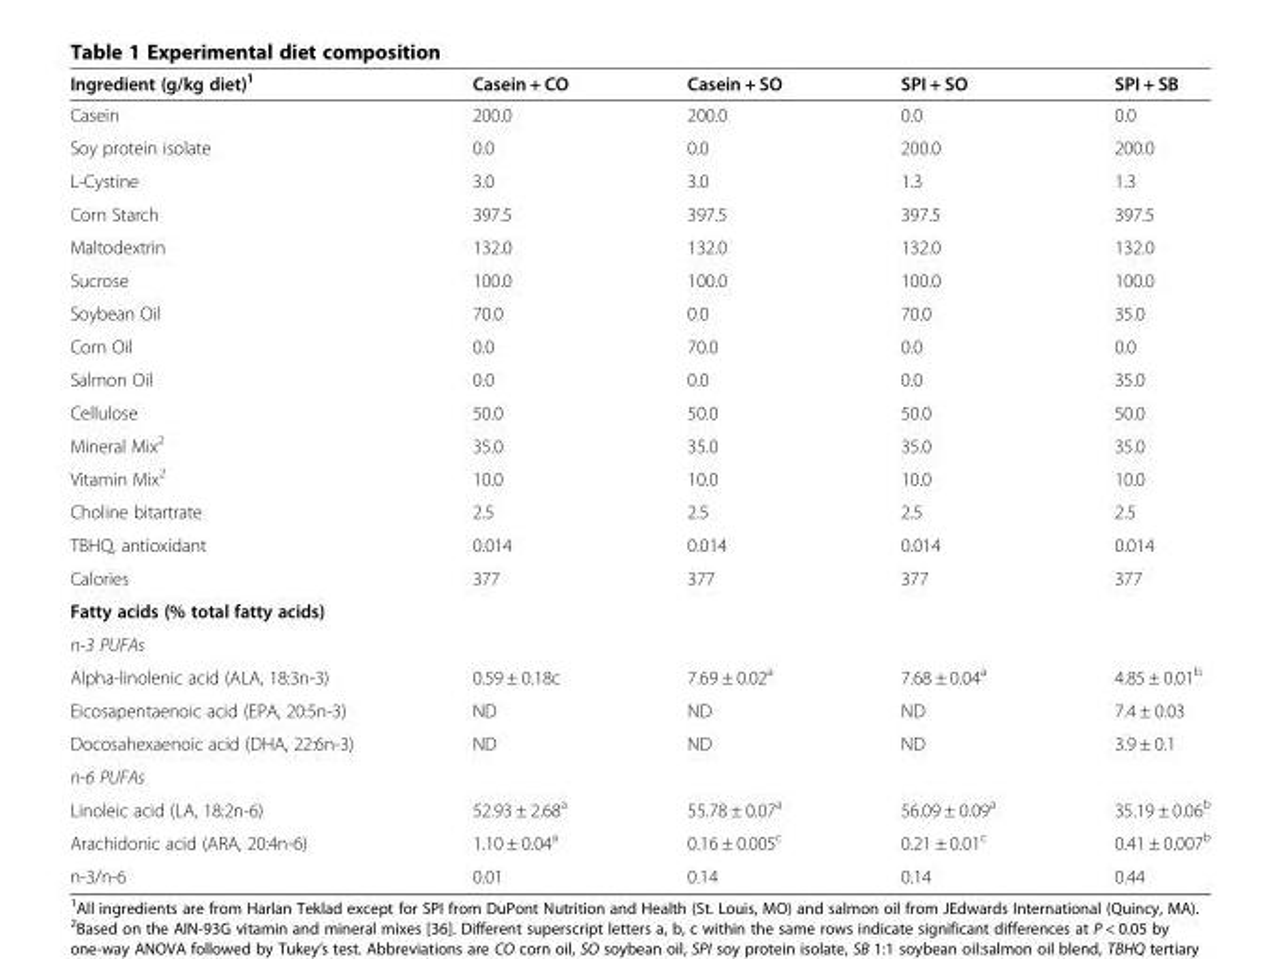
<table><thead><tr><td>Ingredient (g/kg diet)<sup>1</sup></td><td>Casein + CO</td><td>Casein + SO</td><td>SPI + SO</td><td>SPI + SB</td></tr></thead><tbody><tr><td>Casein</td><td>200.0</td><td>200.0</td><td>0.0</td><td>0.0</td></tr><tr><td>Soy protein isolate</td><td>0.0</td><td>0.0</td><td>200.0</td><td>200.0</td></tr><tr><td>L-Cystine</td><td>3.0</td><td>3.0</td><td>1.3</td><td>1.3</td></tr><tr><td>Corn Starch</td><td>397.5</td><td>397.5</td><td>397.5</td><td>397.5</td></tr><tr><td>Maltodextrin</td><td>132.0</td><td>132.0</td><td>132.0</td><td>132.0</td></tr><tr><td>Sucrose</td><td>100.0</td><td>100.0</td><td>100.0</td><td>100.0</td></tr><tr><td>Soybean Oil</td><td>70.0</td><td>0.0</td><td>70.0</td><td>35.0</td></tr><tr><td>Corn Oil</td><td>0.0</td><td>70.0</td><td>0.0</td><td>0.0</td></tr><tr><td>Salmon Oil</td><td>0.0</td><td>0.0</td><td>0.0</td><td>35.0</td></tr><tr><td>Cellulose</td><td>50.0</td><td>50.0</td><td>50.0</td><td>50.0</td></tr><tr><td>Mineral Mix<sup>2</sup></td><td>35.0</td><td>35.0</td><td>35.0</td><td>35.0</td></tr><tr><td>Vitamin Mix<sup>2</sup></td><td>10.0</td><td>10.0</td><td>10.0</td><td>10.0</td></tr><tr><td>Choline bitartrate</td><td>2.5</td><td>2.5</td><td>2.5</td><td>2.5</td></tr><tr><td>TBHQ, antioxidant</td><td>0.014</td><td>0.014</td><td>0.014</td><td>0.014</td></tr><tr><td>Calories</td><td>377</td><td>377</td><td>377</td><td>377</td></tr><tr><td colspan="5">Fatty acids (% total fatty acids)</td></tr><tr><td colspan="5">n-3 PUFAs</td></tr><tr><td>Alpha-linolenic acid (ALA, 18:3n-3)</td><td>0.59 ± 0.18c</td><td>7.69 ± 0.02<sup>a</sup></td><td>7.68 ± 0.04<sup>a</sup></td><td>4.85 ± 0.01<sup>b</sup></td></tr><tr><td>Eicosapentaenoic acid (EPA, 20:5n-3)</td><td>ND</td><td>ND</td><td>ND</td><td>7.4 ± 0.03</td></tr><tr><td>Docosahexaenoic acid (DHA, 22:6n-3)</td><td>ND</td><td>ND</td><td>ND</td><td>3.9 ± 0.1</td></tr><tr><td colspan="5">n-6 PUFAs</td></tr><tr><td>Linoleic acid (LA, 18:2n-6)</td><td>52.93 ± 2.68<sup>a</sup></td><td>55.78 ± 0.07<sup>a</sup></td><td>56.09 ± 0.09<sup>a</sup></td><td>35.19 ± 0.06<sup>b</sup></td></tr><tr><td>Arachidonic acid (ARA, 20:4n-6)</td><td>1.10 ± 0.04<sup>a</sup></td><td>0.16 ± 0.005<sup>c</sup></td><td>0.21 ± 0.01<sup>c</sup></td><td>0.41 ± 0.007<sup>b</sup></td></tr><tr><td>n-3/n-6</td><td>0.01</td><td>0.14</td><td>0.14</td><td>0.44</td></tr></tbody></table>